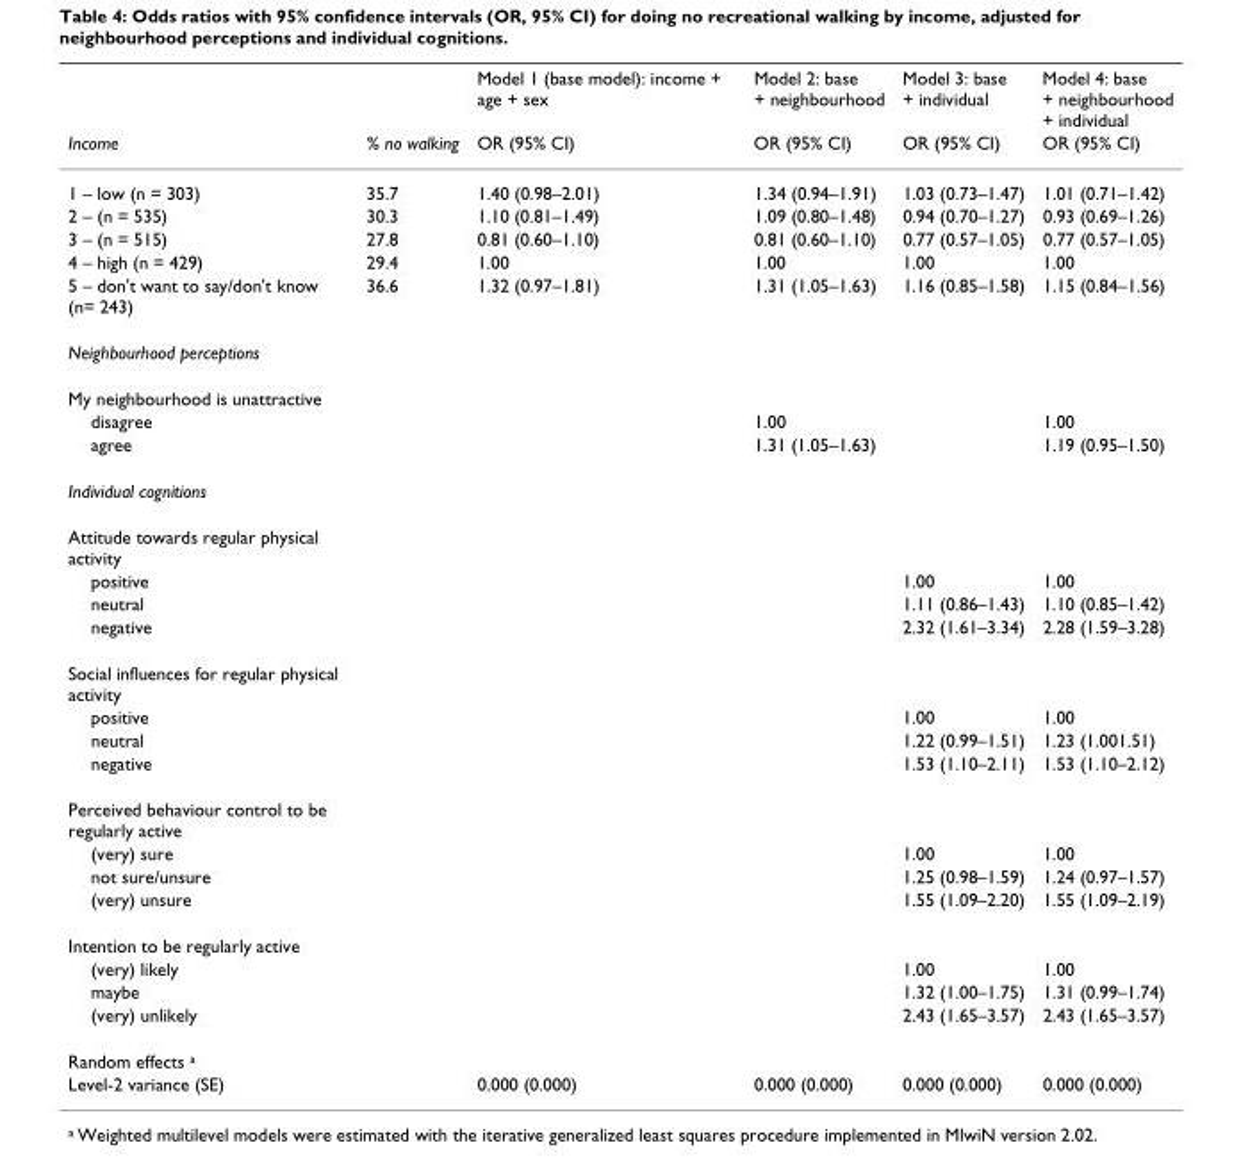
<table><thead><tr><td rowspan="2">Income</td><td rowspan="2">% no walking</td><td rowspan="2">Model 1 (base model): income + age + sex OR (95% CI)</td><td rowspan="2">Model 2: base + neighbourhood OR (95% CI)</td><td rowspan="2">Model 3: base + individual OR (95% CI)</td><td rowspan="2">Model 4: base + neighbourhood + individual OR (95% CI)</td></tr><tr></tr></thead><tbody><tr><td>1 – low (n = 303)</td><td>35.7</td><td>1.40 (0.98–2.01)</td><td>1.34 (0.94–1.91)</td><td>1.03 (0.73–1.47)</td><td>1.01 (0.71–1.42)</td></tr><tr><td>2 – (n = 535)</td><td>30.3</td><td>1.10 (0.81–1.49)</td><td>1.09 (0.80–1.48)</td><td>0.94 (0.70–1.27)</td><td>0.93 (0.69–1.26)</td></tr><tr><td>3 – (n = 515)</td><td>27.8</td><td>0.81 (0.60–1.10)</td><td>0.81 (0.60–1.10)</td><td>0.77 (0.57–1.05)</td><td>0.77 (0.57–1.05)</td></tr><tr><td>4 – high (n = 429)</td><td>29.4</td><td>1.00</td><td>1.00</td><td>1.00</td><td>1.00</td></tr><tr><td>5 – don&#x27;t want to say/don&#x27;t know (n= 243)</td><td>36.6</td><td>1.32 (0.97–1.81)</td><td>1.31 (1.05–1.63)</td><td>1.16 (0.85–1.58)</td><td>1.15 (0.84–1.56)</td></tr><tr><td colspan="6">Neighbourhood perceptions</td></tr><tr><td colspan="6">My neighbourhood is unattractive</td></tr><tr><td>disagree</td><td></td><td></td><td>1.00</td><td></td><td>1.00</td></tr><tr><td>agree</td><td></td><td></td><td>1.31 (1.05–1.63)</td><td></td><td>1.19 (0.95–1.50)</td></tr><tr><td colspan="6">Individual cognitions</td></tr><tr><td colspan="6">Attitude towards regular physical activity</td></tr><tr><td>positive</td><td></td><td></td><td></td><td>1.00</td><td>1.00</td></tr><tr><td>neutral</td><td></td><td></td><td></td><td>1.11 (0.86–1.43)</td><td>1.10 (0.85–1.42)</td></tr><tr><td>negative</td><td></td><td></td><td></td><td>2.32 (1.61–3.34)</td><td>2.28 (1.59–3.28)</td></tr><tr><td colspan="6">Social influences for regular physical activity</td></tr><tr><td>positive</td><td></td><td></td><td></td><td>1.00</td><td>1.00</td></tr><tr><td>neutral</td><td></td><td></td><td></td><td>1.22 (0.99–1.51)</td><td>1.23 (1.001.51)</td></tr><tr><td>negative</td><td></td><td></td><td></td><td>1.53 (1.10–2.11)</td><td>1.53 (1.10–2.12)</td></tr><tr><td colspan="6">Perceived behaviour control to be regularly active</td></tr><tr><td>(very) sure</td><td></td><td></td><td></td><td>1.00</td><td>1.00</td></tr><tr><td>not sure/unsure</td><td></td><td></td><td></td><td>1.25 (0.98–1.59)</td><td>1.24 (0.97–1.57)</td></tr><tr><td>(very) unsure</td><td></td><td></td><td></td><td>1.55 (1.09–2.20)</td><td>1.55 (1.09–2.19)</td></tr><tr><td colspan="6">Intention to be regularly active</td></tr><tr><td>(very) likely</td><td></td><td></td><td></td><td>1.00</td><td>1.00</td></tr><tr><td>maybe</td><td></td><td></td><td></td><td>1.32 (1.00–1.75)</td><td>1.31 (0.99–1.74)</td></tr><tr><td>(very) unlikely</td><td></td><td></td><td></td><td>2.43 (1.65–3.57)</td><td>2.43 (1.65–3.57)</td></tr><tr><td colspan="6">Random effects <sup>a</sup></td></tr><tr><td>Level-2 variance (SE)</td><td></td><td>0.000 (0.000)</td><td>0.000 (0.000)</td><td>0.000 (0.000)</td><td>0.000 (0.000)</td></tr></tbody></table>